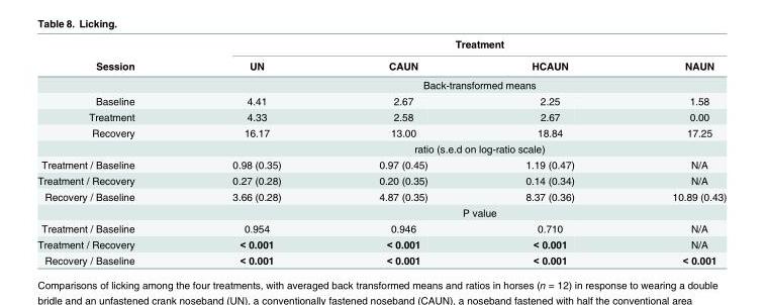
<table><thead><tr><td rowspan="2">Session</td><td colspan="4">Treatment</td></tr><tr><td>UN</td><td>CAUN</td><td>HCAUN</td><td>NAUN</td></tr></thead><tbody><tr><td></td><td colspan="4">Back-transformed means</td></tr><tr><td>Baseline</td><td>4.41</td><td>2.67</td><td>2.25</td><td>1.58</td></tr><tr><td>Treatment</td><td>4.33</td><td>2.58</td><td>2.67</td><td>0.00</td></tr><tr><td rowspan="2">Recovery</td><td>16.17</td><td>13.00</td><td>18.84</td><td>17.25</td></tr><tr><td colspan="4">ratio (s.e.d on log-ratio scale)</td></tr><tr><td>Treatment / Baseline</td><td>0.98 (0.35)</td><td>0.97 (0.45)</td><td>1.19 (0.47)</td><td>N/A</td></tr><tr><td>Treatment / Recovery</td><td>0.27 (0.28)</td><td>0.20 (0.35)</td><td>0.14 (0.34)</td><td>N/A</td></tr><tr><td rowspan="2">Recovery / Baseline</td><td>3.66 (0.28)</td><td>4.87 (0.35)</td><td>8.37 (0.36)</td><td>10.89 (0.43)</td></tr><tr><td colspan="4">P value</td></tr><tr><td>Treatment / Baseline</td><td>0.954</td><td>0.946</td><td>0.710</td><td>N/A</td></tr><tr><td>Treatment / Recovery</td><td>&lt; 0.001</td><td>&lt; 0.001</td><td>&lt; 0.001</td><td>N/A</td></tr><tr><td>Recovery / Baseline</td><td>&lt; 0.001</td><td>&lt; 0.001</td><td>&lt; 0.001</td><td>&lt; 0.001</td></tr></tbody></table>